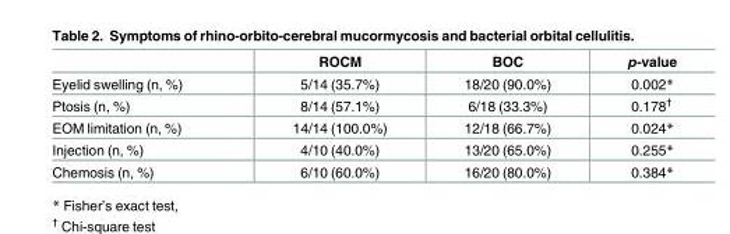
<table><thead><tr><td></td><td>ROCM</td><td>BOC</td><td>p-value</td></tr></thead><tbody><tr><td>Eyelid swelling (n, %)</td><td>5/14 (35.7%)</td><td>18/20 (90.0%)</td><td>0.002*</td></tr><tr><td>Ptosis (n, %)</td><td>8/14 (57.1%)</td><td>6/18 (33.3%)</td><td>0.178<sup>†</sup></td></tr><tr><td>EOM limitation (n, %)</td><td>14/14 (100.0%)</td><td>12/18 (66.7%)</td><td>0.024*</td></tr><tr><td>Injection (n, %)</td><td>4/10 (40.0%)</td><td>13/20 (65.0%)</td><td>0.255*</td></tr><tr><td>Chemosis (n, %)</td><td>6/10 (60.0%)</td><td>16/20 (80.0%)</td><td>0.384*</td></tr></tbody></table>